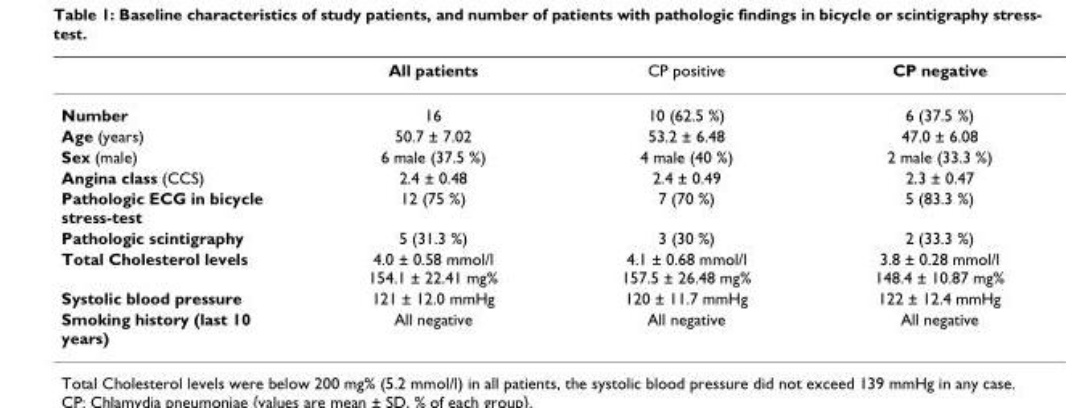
<table><thead><tr><td></td><td>All patients</td><td>CP positive</td><td>CP negative</td></tr></thead><tbody><tr><td>Number</td><td>16</td><td>10 (62.5 %)</td><td>6 (37.5 %)</td></tr><tr><td>Age (years)</td><td>50.7 ± 7.02</td><td>53.2 ± 6.48</td><td>47.0 ± 6.08</td></tr><tr><td>Sex (male)</td><td>6 male (37.5 %)</td><td>4 male (40 %)</td><td>2 male (33.3 %)</td></tr><tr><td>Angina class (CCS)</td><td>2.4 ± 0.48</td><td>2.4 ± 0.49</td><td>2.3 ± 0.47</td></tr><tr><td>Pathologic ECG in bicycle stress-test</td><td>12 (75 %)</td><td>7 (70 %)</td><td>5 (83.3 %)</td></tr><tr><td>Pathologic scintigraphy</td><td>5 (31.3 %)</td><td>3 (30 %)</td><td>2 (33.3 %)</td></tr><tr><td>Total Cholesterol levels</td><td>4.0 ± 0.58 mmol/l 154.1 ± 22.41 mg%</td><td>4.1 ± 0.68 mmol/l 157.5 ± 26.48 mg%</td><td>3.8 ± 0.28 mmol/l 148.4 ± 10.87 mg%</td></tr><tr><td>Systolic blood pressure</td><td>121 ± 12.0 mmHg</td><td>120 ± 11.7 mmHg</td><td>122 ± 12.4 mmHg</td></tr><tr><td>Smoking history (last 10 years)</td><td>All negative</td><td>All negative</td><td>All negative</td></tr></tbody></table>